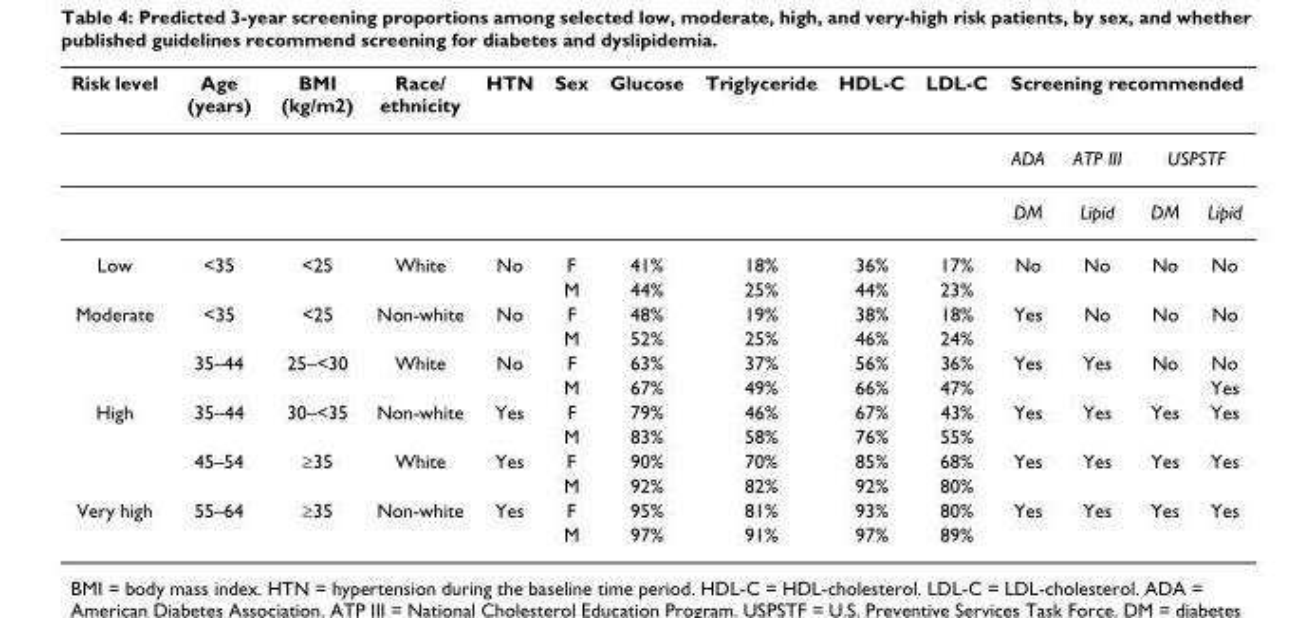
<table><thead><tr><td rowspan="3">Risk level</td><td rowspan="3">Age (years)</td><td rowspan="3">BMI (kg/m2)</td><td rowspan="3">Race/ ethnicity</td><td rowspan="3">HTN</td><td rowspan="3">Sex</td><td rowspan="3">Glucose</td><td rowspan="3">Triglyceride</td><td rowspan="3">HDL-C</td><td rowspan="3">LDL-C</td><td colspan="4">Screening recommended</td></tr><tr><td rowspan="2">ADA DM</td><td rowspan="2">ATP III Lipid</td><td colspan="2">USPSTF</td></tr><tr><td>DM</td><td>Lipid</td></tr></thead><tbody><tr><td rowspan="2">Low</td><td>&lt;35</td><td>&lt;25</td><td>White</td><td>No</td><td>F</td><td>41%</td><td>18%</td><td>36%</td><td>17%</td><td>No</td><td>No</td><td>No</td><td>No</td></tr><tr><td></td><td></td><td></td><td></td><td>M</td><td>44%</td><td>25%</td><td>44%</td><td>23%</td><td></td><td></td><td></td><td></td></tr><tr><td rowspan="4">Moderate</td><td>&lt;35</td><td>&lt;25</td><td>Non-white</td><td>No</td><td>F</td><td>48%</td><td>19%</td><td>38%</td><td>18%</td><td>Yes</td><td>No</td><td>No</td><td>No</td></tr><tr><td></td><td></td><td></td><td></td><td>M</td><td>52%</td><td>25%</td><td>46%</td><td>24%</td><td></td><td></td><td></td><td></td></tr><tr><td>35–44</td><td>25–&lt;30</td><td>White</td><td>No</td><td>F</td><td>63%</td><td>37%</td><td>56%</td><td>36%</td><td>Yes</td><td>Yes</td><td>No</td><td>No</td></tr><tr><td></td><td></td><td></td><td></td><td>M</td><td>67%</td><td>49%</td><td>66%</td><td>47%</td><td></td><td></td><td></td><td>Yes</td></tr><tr><td rowspan="4">High</td><td>35–44</td><td>30–&lt;35</td><td>Non-white</td><td>Yes</td><td>F</td><td>79%</td><td>46%</td><td>67%</td><td>43%</td><td>Yes</td><td>Yes</td><td>Yes</td><td>Yes</td></tr><tr><td></td><td></td><td></td><td></td><td>M</td><td>83%</td><td>58%</td><td>76%</td><td>55%</td><td></td><td></td><td></td><td></td></tr><tr><td>45–54</td><td>≥35</td><td>White</td><td>Yes</td><td>F</td><td>90%</td><td>70%</td><td>85%</td><td>68%</td><td>Yes</td><td>Yes</td><td>Yes</td><td>Yes</td></tr><tr><td></td><td></td><td></td><td></td><td>M</td><td>92%</td><td>82%</td><td>92%</td><td>80%</td><td></td><td></td><td></td><td></td></tr><tr><td rowspan="2">Very high</td><td>55–64</td><td>≥35</td><td>Non-white</td><td>Yes</td><td>F</td><td>95%</td><td>81%</td><td>93%</td><td>80%</td><td>Yes</td><td>Yes</td><td>Yes</td><td>Yes</td></tr><tr><td></td><td></td><td></td><td></td><td>M</td><td>97%</td><td>91%</td><td>97%</td><td>89%</td><td></td><td></td><td></td><td></td></tr></tbody></table>